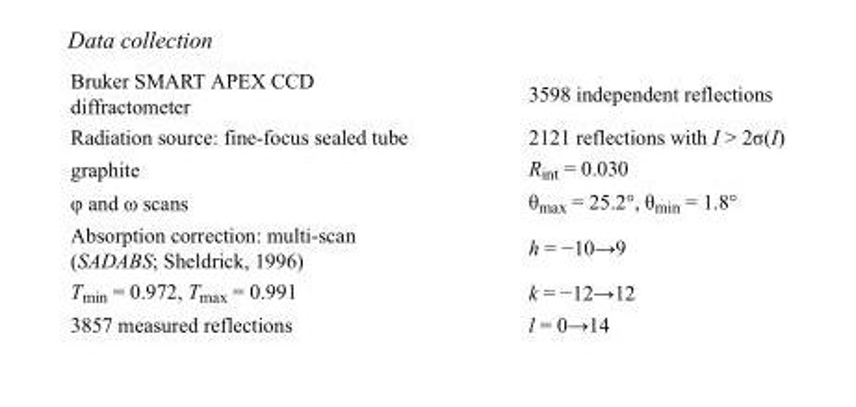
<table><tbody><tr><td>Bruker SMART APEX CCD diffractometer</td><td>3598 independent reflections</td></tr><tr><td>Radiation source: fine-focus sealed tube</td><td>2121 reflections with I &gt; 2σ(I)</td></tr><tr><td>graphite</td><td>R<sub>int</sub> = 0.030</td></tr><tr><td>φ and ω scans</td><td>θ<sub>max</sub> = 25.2°, θ<sub>min</sub> = 1.8°</td></tr><tr><td>Absorption correction: multi-scan (SADABS; Sheldrick, 1996)</td><td>h = −10→9</td></tr><tr><td>T<sub>min</sub> = 0.972, T<sub>max</sub> = 0.991</td><td>k = −12→12</td></tr><tr><td>3857 measured reflections</td><td>l = 0→14</td></tr></tbody></table>